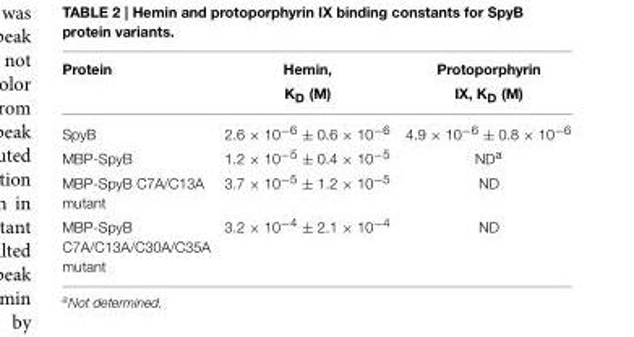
<table><thead><tr><td>Protein</td><td>Hemin, K<sub>D</sub> (M)</td><td>Protoporphyrin IX, K<sub>D</sub> (M)</td></tr></thead><tbody><tr><td>SpyB</td><td>2.6 × 10<sup>−6</sup> ± 0.6 × 10<sup>−6</sup></td><td>4.9 × 10<sup>−6</sup> ± 0.8 × 10<sup>−6</sup></td></tr><tr><td>MBP-SpyB</td><td>1.2 × 10<sup>−5</sup> ± 0.4 × 10<sup>−5</sup></td><td>ND<sup>a</sup></td></tr><tr><td>MBP-SpyB C7A/C13A mutant</td><td>3.7 × 10<sup>−5</sup> ± 1.2 × 10<sup>−5</sup></td><td>ND</td></tr><tr><td>MBP-SpyB C7A/C13A/C30A/C35A mutant</td><td>3.2 × 10<sup>−4</sup> ± 2.1 × 10<sup>−4</sup></td><td>ND</td></tr></tbody></table>